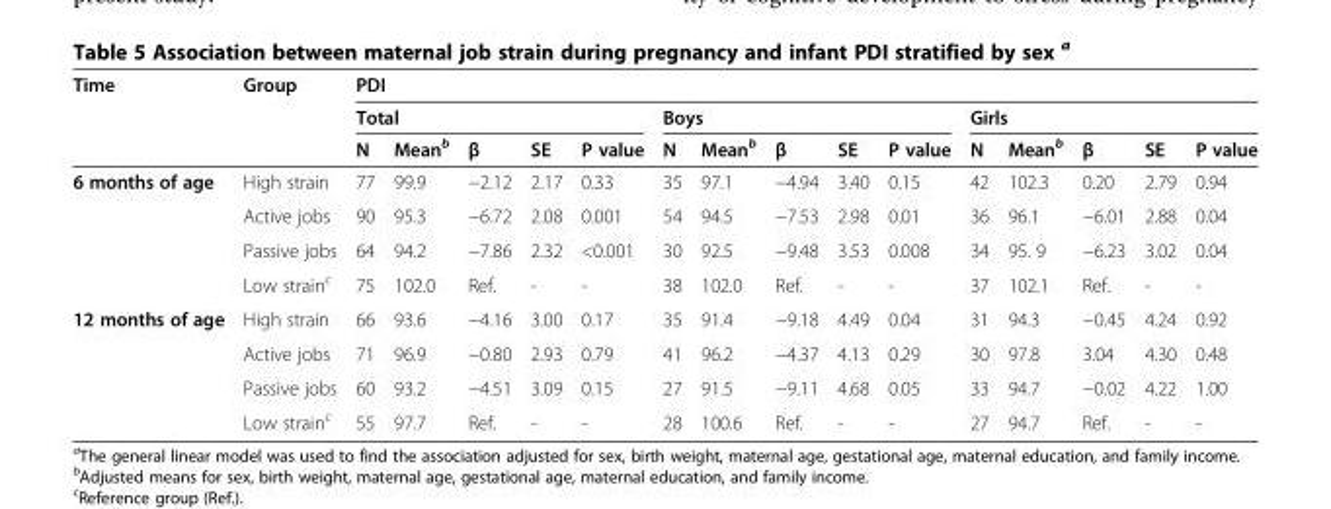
<table><thead><tr><td rowspan="3">Time</td><td rowspan="3">Group</td><td colspan="15">PDI</td></tr><tr><td colspan="5">Total</td><td colspan="5">Boys</td><td colspan="5">Girls</td></tr><tr><td>N</td><td>Mean<sup>b</sup></td><td>β</td><td>SE</td><td>P value</td><td>N</td><td>Mean<sup>b</sup></td><td>β</td><td>SE</td><td>P value</td><td>N</td><td>Mean<sup>b</sup></td><td>β</td><td>SE</td><td>P value</td></tr></thead><tbody><tr><td rowspan="4">6 months of age</td><td>High strain</td><td>77</td><td>99.9</td><td>−2.12</td><td>2.17</td><td>0.33</td><td>35</td><td>97.1</td><td>−4.94</td><td>3.40</td><td>0.15</td><td>42</td><td>102.3</td><td>0.20</td><td>2.79</td><td>0.94</td></tr><tr><td>Active jobs</td><td>90</td><td>95.3</td><td>−6.72</td><td>2.08</td><td>0.001</td><td>54</td><td>94.5</td><td>−7.53</td><td>2.98</td><td>0.01</td><td>36</td><td>96.1</td><td>−6.01</td><td>2.88</td><td>0.04</td></tr><tr><td>Passive jobs</td><td>64</td><td>94.2</td><td>−7.86</td><td>2.32</td><td>&lt;0.001</td><td>30</td><td>92.5</td><td>−9.48</td><td>3.53</td><td>0.008</td><td>34</td><td>95. 9</td><td>−6.23</td><td>3.02</td><td>0.04</td></tr><tr><td>Low strain<sup>c</sup></td><td>75</td><td>102.0</td><td>Ref.</td><td>-</td><td>-</td><td>38</td><td>102.0</td><td>Ref.</td><td>-</td><td>-</td><td>37</td><td>102.1</td><td>Ref.</td><td>-</td><td>-</td></tr><tr><td rowspan="4">12 months of age</td><td>High strain</td><td>66</td><td>93.6</td><td>−4.16</td><td>3.00</td><td>0.17</td><td>35</td><td>91.4</td><td>−9.18</td><td>4.49</td><td>0.04</td><td>31</td><td>94.3</td><td>−0.45</td><td>4.24</td><td>0.92</td></tr><tr><td>Active jobs</td><td>71</td><td>96.9</td><td>−0.80</td><td>2.93</td><td>0.79</td><td>41</td><td>96.2</td><td>−4.37</td><td>4.13</td><td>0.29</td><td>30</td><td>97.8</td><td>3.04</td><td>4.30</td><td>0.48</td></tr><tr><td>Passive jobs</td><td>60</td><td>93.2</td><td>−4.51</td><td>3.09</td><td>0.15</td><td>27</td><td>91.5</td><td>−9.11</td><td>4.68</td><td>0.05</td><td>33</td><td>94.7</td><td>−0.02</td><td>4.22</td><td>1.00</td></tr><tr><td>Low strain<sup>c</sup></td><td>55</td><td>97.7</td><td>Ref.</td><td>-</td><td>-</td><td>28</td><td>100.6</td><td>Ref.</td><td>-</td><td>-</td><td>27</td><td>94.7</td><td>Ref.</td><td>-</td><td>-</td></tr></tbody></table>